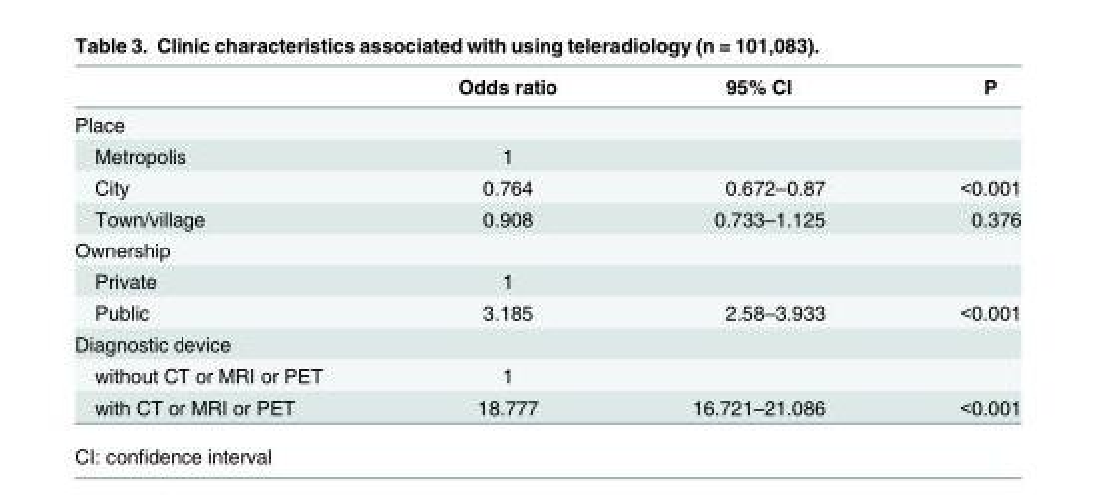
<table><thead><tr><td></td><td>Odds ratio</td><td>95% CI</td><td>P</td></tr></thead><tbody><tr><td colspan="4">Place</td></tr><tr><td>Metropolis</td><td>1</td><td></td><td></td></tr><tr><td>City</td><td>0.764</td><td>0.672–0.87</td><td>&lt;0.001</td></tr><tr><td>Town/village</td><td>0.908</td><td>0.733–1.125</td><td>0.376</td></tr><tr><td colspan="4">Ownership</td></tr><tr><td>Private</td><td>1</td><td></td><td></td></tr><tr><td>Public</td><td>3.185</td><td>2.58–3.933</td><td>&lt;0.001</td></tr><tr><td colspan="4">Diagnostic device</td></tr><tr><td>without CT or MRI or PET</td><td>1</td><td></td><td></td></tr><tr><td>with CT or MRI or PET</td><td>18.777</td><td>16.721–21.086</td><td>&lt;0.001</td></tr></tbody></table>